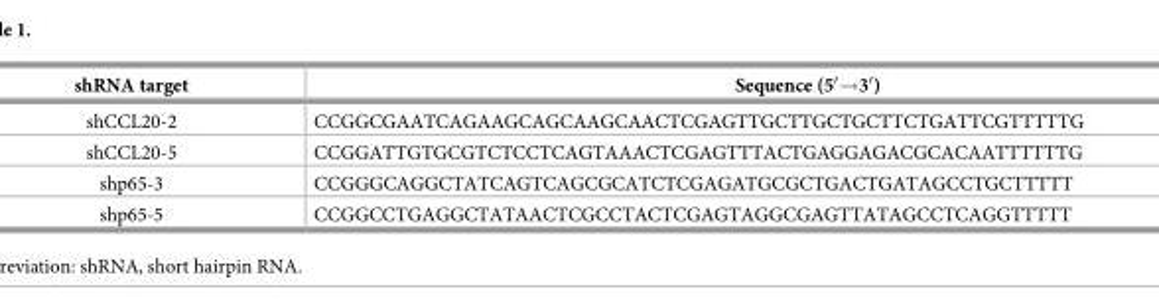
<table><thead><tr><td>shRNA target</td><td>Sequence (5′→3′)</td></tr></thead><tbody><tr><td>shCCL20-2</td><td>CCGGCGAATCAGAAGCAGCAAGCAACTCGAGTTGCTTGCTGCTTCTGATTCGTTTTTG</td></tr><tr><td>shCCL20-5</td><td>CCGGATTGTGCGTCTCCTCAGTAAACTCGAGTTTACTGAGGAGACGCACAATTTTTTG</td></tr><tr><td>shp65-3</td><td>CCGGGCAGGCTATCAGTCAGCGCATCTCGAGATGCGCTGACTGATAGCCTGCTTTTT</td></tr><tr><td>shp65-5</td><td>CCGGCCTGAGGCTATAACTCGCCTACTCGAGTAGGCGAGTTATAGCCTCAGGTTTTT</td></tr></tbody></table>